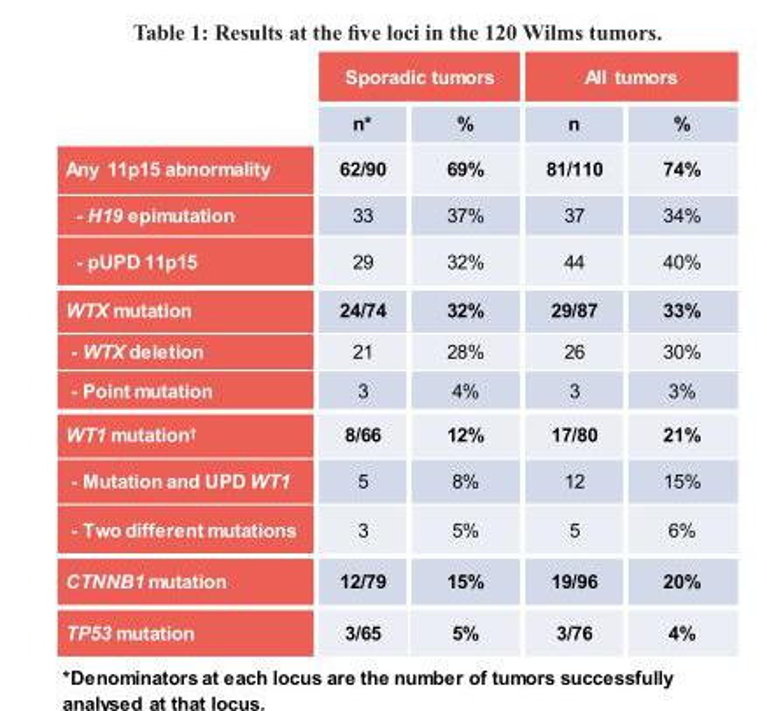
<table><thead><tr><td rowspan="2"></td><td colspan="2">Sporadic tumors</td><td colspan="2">All tumors</td></tr><tr><td>n*</td><td>%</td><td>n</td><td>%</td></tr></thead><tbody><tr><td>Any 11p15 abnormality</td><td>62/90</td><td>69%</td><td>81/110</td><td>74%</td></tr><tr><td>- H19 epimutation</td><td>33</td><td>37%</td><td>37</td><td>34%</td></tr><tr><td>- pUPD 11p15</td><td>29</td><td>32%</td><td>44</td><td>40%</td></tr><tr><td>WTX mutation</td><td>24/74</td><td>32%</td><td>29/87</td><td>33%</td></tr><tr><td>- WTX deletion</td><td>21</td><td>28%</td><td>26</td><td>30%</td></tr><tr><td>- Point mutation</td><td>3</td><td>4%</td><td>3</td><td>3%</td></tr><tr><td>WT1 mutation<sup>†</sup></td><td>8/66</td><td>12%</td><td>17/80</td><td>21%</td></tr><tr><td>- Mutation and UPD WT1</td><td>5</td><td>8%</td><td>12</td><td>15%</td></tr><tr><td>- Two different mutations</td><td>3</td><td>5%</td><td>5</td><td>6%</td></tr><tr><td>CTNNB1 mutation</td><td>12/79</td><td>15%</td><td>19/96</td><td>20%</td></tr><tr><td>TP53 mutation</td><td>3/65</td><td>5%</td><td>3/76</td><td>4%</td></tr></tbody></table>